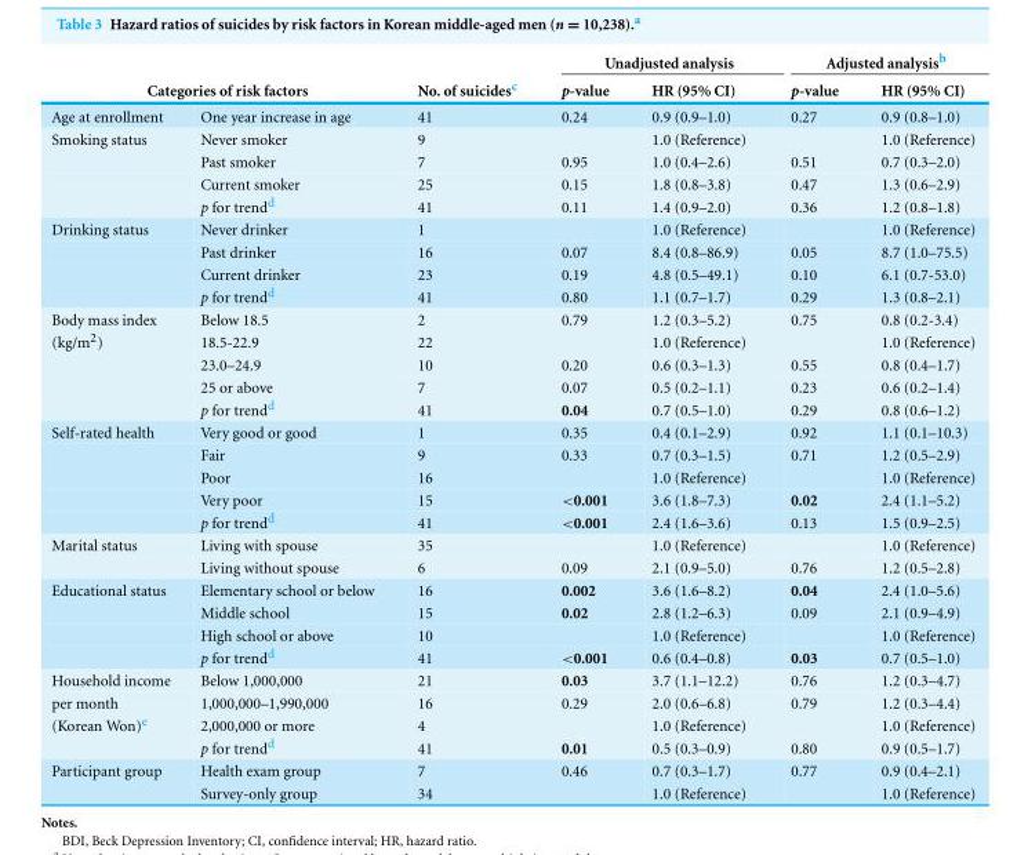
<table><thead><tr><td></td><td></td><td rowspan="2">No. of suicides<sup>c</sup></td><td colspan="2">Unadjusted analysis</td><td colspan="2">Adjusted analysis<sup>b</sup></td></tr><tr><td colspan="2">Categories of risk factors</td><td>p-value</td><td>HR (95% CI)</td><td>p-value</td><td>HR (95% CI)</td></tr></thead><tbody><tr><td>Age at enrollment</td><td>One year increase in age</td><td>41</td><td>0.24</td><td>0.9 (0.9–1.0)</td><td>0.27</td><td>0.9 (0.8–1.0)</td></tr><tr><td rowspan="4">Smoking status</td><td>Never smoker</td><td>9</td><td></td><td>1.0 (Reference)</td><td></td><td>1.0 (Reference)</td></tr><tr><td>Past smoker</td><td>7</td><td>0.95</td><td>1.0 (0.4–2.6)</td><td>0.51</td><td>0.7 (0.3–2.0)</td></tr><tr><td>Current smoker</td><td>25</td><td>0.15</td><td>1.8 (0.8–3.8)</td><td>0.47</td><td>1.3 (0.6–2.9)</td></tr><tr><td>p for trend<sup>d</sup></td><td>41</td><td>0.11</td><td>1.4 (0.9–2.0)</td><td>0.36</td><td>1.2 (0.8–1.8)</td></tr><tr><td rowspan="4">Drinking status</td><td>Never drinker</td><td>1</td><td></td><td>1.0 (Reference)</td><td></td><td>1.0 (Reference)</td></tr><tr><td>Past drinker</td><td>16</td><td>0.07</td><td>8.4 (0.8–86.9)</td><td>0.05</td><td>8.7 (1.0–75.5)</td></tr><tr><td>Current drinker</td><td>23</td><td>0.19</td><td>4.8 (0.5–49.1)</td><td>0.10</td><td>6.1 (0.7-53.0)</td></tr><tr><td>p for trend<sup>d</sup></td><td>41</td><td>0.80</td><td>1.1 (0.7–1.7)</td><td>0.29</td><td>1.3 (0.8–2.1)</td></tr><tr><td>Body mass index</td><td>Below 18.5</td><td>2</td><td>0.79</td><td>1.2 (0.3–5.2)</td><td>0.75</td><td>0.8 (0.2-3.4)</td></tr><tr><td rowspan="4">(kg/m<sup>2</sup>)</td><td>18.5-22.9</td><td>22</td><td></td><td>1.0 (Reference)</td><td></td><td>1.0 (Reference)</td></tr><tr><td>23.0–24.9</td><td>10</td><td>0.20</td><td>0.6 (0.3–1.3)</td><td>0.55</td><td>0.8 (0.4–1.7)</td></tr><tr><td>25 or above</td><td>7</td><td>0.07</td><td>0.5 (0.2–1.1)</td><td>0.23</td><td>0.6 (0.2–1.4)</td></tr><tr><td>p for trend<sup>d</sup></td><td>41</td><td>0.04</td><td>0.7 (0.5–1.0)</td><td>0.29</td><td>0.8 (0.6–1.2)</td></tr><tr><td rowspan="5">Self-rated health</td><td>Very good or good</td><td>1</td><td>0.35</td><td>0.4 (0.1–2.9)</td><td>0.92</td><td>1.1 (0.1–10.3)</td></tr><tr><td>Fair</td><td>9</td><td>0.33</td><td>0.7 (0.3–1.5)</td><td>0.71</td><td>1.2 (0.5–2.9)</td></tr><tr><td>Poor</td><td>16</td><td></td><td>1.0 (Reference)</td><td></td><td>1.0 (Reference)</td></tr><tr><td>Very poor</td><td>15</td><td>&lt;0.001</td><td>3.6 (1.8–7.3)</td><td>0.02</td><td>2.4 (1.1–5.2)</td></tr><tr><td>p for trend<sup>d</sup></td><td>41</td><td>&lt;0.001</td><td>2.4 (1.6–3.6)</td><td>0.13</td><td>1.5 (0.9–2.5)</td></tr><tr><td rowspan="2">Marital status</td><td>Living with spouse</td><td>35</td><td></td><td>1.0 (Reference)</td><td></td><td>1.0 (Reference)</td></tr><tr><td>Living without spouse</td><td>6</td><td>0.09</td><td>2.1 (0.9–5.0)</td><td>0.76</td><td>1.2 (0.5–2.8)</td></tr><tr><td rowspan="4">Educational status</td><td>Elementary school or below</td><td>16</td><td>0.002</td><td>3.6 (1.6–8.2)</td><td>0.04</td><td>2.4 (1.0–5.6)</td></tr><tr><td>Middle school</td><td>15</td><td>0.02</td><td>2.8 (1.2–6.3)</td><td>0.09</td><td>2.1 (0.9–4.9)</td></tr><tr><td>High school or above</td><td>10</td><td></td><td>1.0 (Reference)</td><td></td><td>1.0 (Reference)</td></tr><tr><td>p for trend<sup>d</sup></td><td>41</td><td>&lt;0.001</td><td>0.6 (0.4–0.8)</td><td>0.03</td><td>0.7 (0.5–1.0)</td></tr><tr><td>Household income</td><td>Below 1,000,000</td><td>21</td><td>0.03</td><td>3.7 (1.1–12.2)</td><td>0.76</td><td>1.2 (0.3–4.7)</td></tr><tr><td>per month</td><td>1,000,000–1,990,000</td><td>16</td><td>0.29</td><td>2.0 (0.6–6.8)</td><td>0.79</td><td>1.2 (0.3–4.4)</td></tr><tr><td rowspan="2">(Korean Won)<sup>e</sup></td><td>2,000,000 or more</td><td>4</td><td></td><td>1.0 (Reference)</td><td></td><td>1.0 (Reference)</td></tr><tr><td>p for trend<sup>d</sup></td><td>41</td><td>0.01</td><td>0.5 (0.3–0.9)</td><td>0.80</td><td>0.9 (0.5–1.7)</td></tr><tr><td rowspan="2">Participant group</td><td>Health exam group</td><td>7</td><td>0.46</td><td>0.7 (0.3–1.7)</td><td>0.77</td><td>0.9 (0.4–2.1)</td></tr><tr><td>Survey-only group</td><td>34</td><td></td><td>1.0 (Reference)</td><td></td><td>1.0 (Reference)</td></tr></tbody></table>